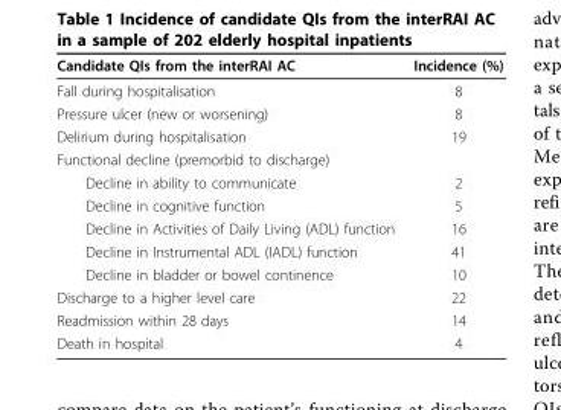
<table><thead><tr><td>Candidate QIs from the interRAI AC</td><td>Incidence (%)</td></tr></thead><tbody><tr><td>Fall during hospitalisation</td><td>8</td></tr><tr><td>Pressure ulcer (new or worsening)</td><td>8</td></tr><tr><td>Delirium during hospitalisation</td><td>19</td></tr><tr><td colspan="2">Functional decline (premorbid to discharge)</td></tr><tr><td>Decline in ability to communicate</td><td>2</td></tr><tr><td>Decline in cognitive function</td><td>5</td></tr><tr><td>Decline in Activities of Daily Living (ADL) function</td><td>16</td></tr><tr><td>Decline in Instrumental ADL (IADL) function</td><td>41</td></tr><tr><td>Decline in bladder or bowel continence</td><td>10</td></tr><tr><td>Discharge to a higher level care</td><td>22</td></tr><tr><td>Readmission within 28 days</td><td>14</td></tr><tr><td>Death in hospital</td><td>4</td></tr></tbody></table>